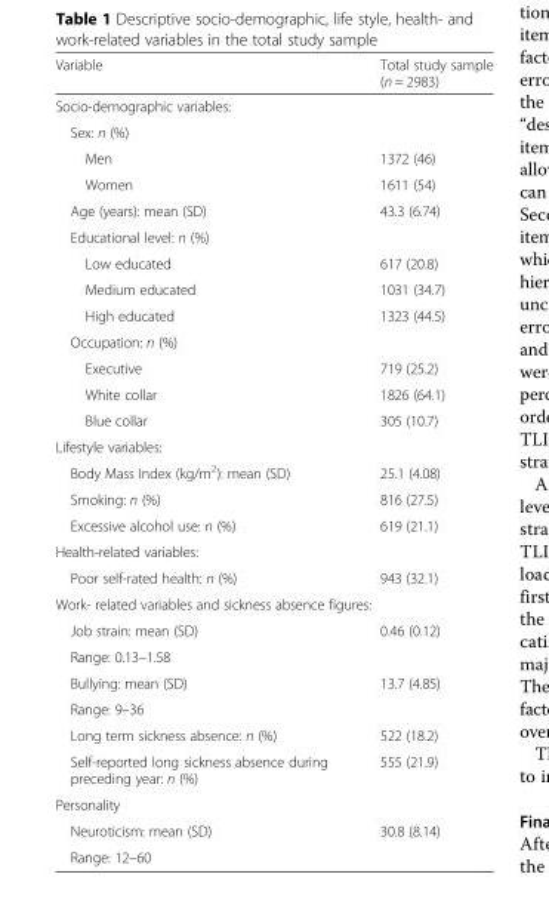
<table><thead><tr><td>Variable</td><td>Total study sample (n = 2983)</td></tr></thead><tbody><tr><td colspan="2">Socio-demographic variables:</td></tr><tr><td colspan="2">Sex: n (%)</td></tr><tr><td>Men</td><td>1372 (46)</td></tr><tr><td>Women</td><td>1611 (54)</td></tr><tr><td>Age (years): mean (SD)</td><td>43.3 (6.74)</td></tr><tr><td colspan="2">Educational level: n (%)</td></tr><tr><td>Low educated</td><td>617 (20.8)</td></tr><tr><td>Medium educated</td><td>1031 (34.7)</td></tr><tr><td>High educated</td><td>1323 (44.5)</td></tr><tr><td colspan="2">Occupation: n (%)</td></tr><tr><td>Executive</td><td>719 (25.2)</td></tr><tr><td>White collar</td><td>1826 (64.1)</td></tr><tr><td>Blue collar</td><td>305 (10.7)</td></tr><tr><td colspan="2">Lifestyle variables:</td></tr><tr><td>Body Mass Index (kg/m<sup>2</sup>): mean (SD)</td><td>25.1 (4.08)</td></tr><tr><td>Smoking: n (%)</td><td>816 (27.5)</td></tr><tr><td>Excessive alcohol use: n (%)</td><td>619 (21.1)</td></tr><tr><td colspan="2">Health-related variables:</td></tr><tr><td>Poor self-rated health: n (%)</td><td>943 (32.1)</td></tr><tr><td colspan="2">Work- related variables and sickness absence figures:</td></tr><tr><td>Job strain: mean (SD)</td><td rowspan="2">0.46 (0.12)</td></tr><tr><td>Range: 0.13–1.58</td></tr><tr><td>Bullying: mean (SD)</td><td rowspan="2">13.7 (4.85)</td></tr><tr><td>Range: 9–36</td></tr><tr><td>Long term sickness absence: n (%)</td><td>522 (18.2)</td></tr><tr><td>Self-reported long sickness absence during preceding year: n (%)</td><td>555 (21.9)</td></tr><tr><td colspan="2">Personality</td></tr><tr><td>Neuroticism: mean (SD)</td><td rowspan="2">30.8 (8.14)</td></tr><tr><td>Range: 12–60</td></tr></tbody></table>